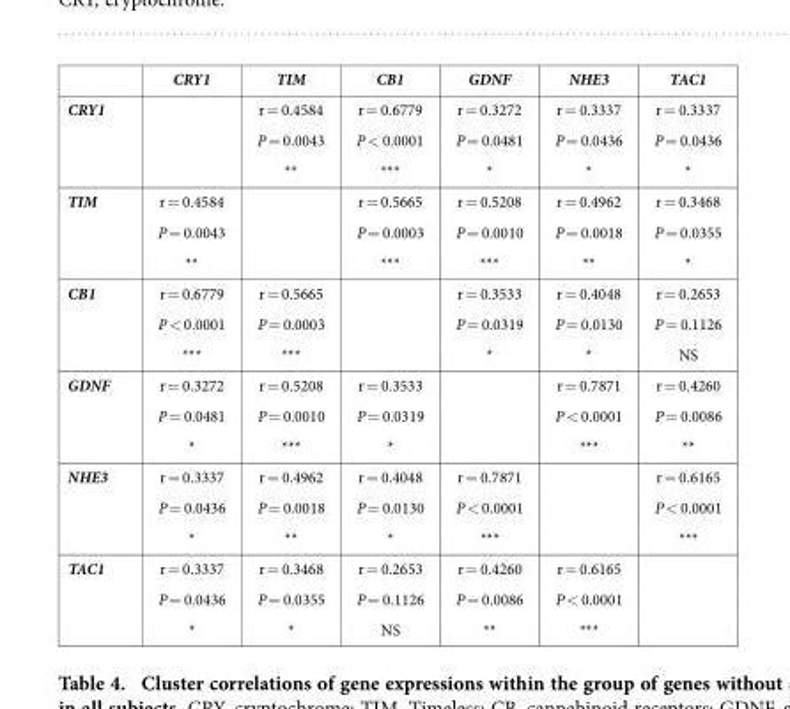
<table><thead><tr><td></td><td>CRY1</td><td>TIM</td><td>CB1</td><td>GDNF</td><td>NHE3</td><td>TAC1</td></tr></thead><tbody><tr><td rowspan="3">CRY1</td><td rowspan="3"></td><td>r = 0.4584</td><td>r = 0.6779</td><td>r = 0.3272</td><td>r = 0.3337</td><td>r = 0.3337</td></tr><tr><td>P = 0.0043</td><td>P &lt; 0.0001</td><td>P = 0.0481</td><td>P = 0.0436</td><td>P = 0.0436</td></tr><tr><td>**</td><td>***</td><td>*</td><td>*</td><td>*</td></tr><tr><td rowspan="3">TIM</td><td>r = 0.4584</td><td rowspan="3"></td><td>r = 0.5665</td><td>r = 0.5208</td><td>r = 0.4962</td><td>r = 0.3468</td></tr><tr><td>P = 0.0043</td><td>P = 0.0003</td><td>P = 0.0010</td><td>P = 0.0018</td><td>P = 0.0355</td></tr><tr><td>**</td><td>***</td><td>***</td><td>**</td><td>*</td></tr><tr><td rowspan="3">CB1</td><td>r = 0.6779</td><td>r = 0.5665</td><td rowspan="3"></td><td>r = 0.3533</td><td>r = 0.4048</td><td>r = 0.2653</td></tr><tr><td>P &lt; 0.0001</td><td>P = 0.0003</td><td>P = 0.0319</td><td>P = 0.0130</td><td>P = 0.1126</td></tr><tr><td>***</td><td>***</td><td>*</td><td>*</td><td>NS</td></tr><tr><td rowspan="3">GDNF</td><td>r = 0.3272</td><td>r = 0.5208</td><td>r = 0.3533</td><td rowspan="3"></td><td>r = 0.7871</td><td>r = 0.4260</td></tr><tr><td>P = 0.0481</td><td>P = 0.0010</td><td>P = 0.0319</td><td>P &lt; 0.0001</td><td>P = 0.0086</td></tr><tr><td>*</td><td>***</td><td>*</td><td>***</td><td>**</td></tr><tr><td rowspan="3">NHE3</td><td>r = 0.3337</td><td>r = 0.4962</td><td>r = 0.4048</td><td>r = 0.7871</td><td rowspan="3"></td><td>r = 0.6165</td></tr><tr><td>P = 0.0436</td><td>P = 0.0018</td><td>P = 0.0130</td><td>P &lt; 0.0001</td><td>P &lt; 0.0001</td></tr><tr><td>*</td><td>**</td><td>*</td><td>***</td><td>***</td></tr><tr><td rowspan="3">TAC1</td><td>r = 0.3337</td><td>r = 0.3468</td><td>r = 0.2653</td><td>r = 0.4260</td><td>r = 0.6165</td><td rowspan="3"></td></tr><tr><td>P = 0.0436</td><td>P = 0.0355</td><td>P = 0.1126</td><td>P = 0.0086</td><td>P &lt; 0.0001</td></tr><tr><td>*</td><td>*</td><td>NS</td><td>**</td><td>***</td></tr></tbody></table>